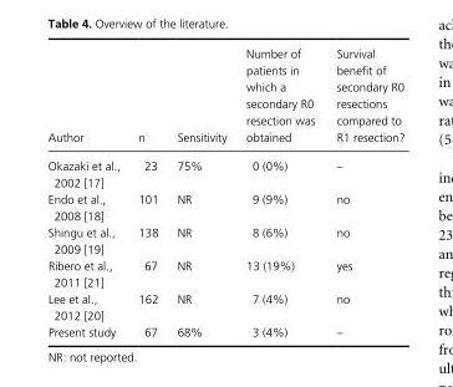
<table><thead><tr><td>Author</td><td>n</td><td>Sensitivity</td><td>Number of patients in which a secondary R0 resection was obtained</td><td>Survival benefit of secondary R0 resections compared to R1 resection?</td></tr></thead><tbody><tr><td>Okazaki et al., 2002 [17]</td><td>23</td><td>75%</td><td>0 (0%)</td><td>–</td></tr><tr><td>Endo et al., 2008 [18]</td><td>101</td><td>NR</td><td>9 (9%)</td><td>no</td></tr><tr><td>Shingu et al., 2009 [19]</td><td>138</td><td>NR</td><td>8 (6%)</td><td>no</td></tr><tr><td>Ribero et al., 2011 [21]</td><td>67</td><td>NR</td><td>13 (19%)</td><td>yes</td></tr><tr><td>Lee et al., 2012 [20]</td><td>162</td><td>NR</td><td>7 (4%)</td><td>no</td></tr><tr><td>Present study</td><td>67</td><td>68%</td><td>3 (4%)</td><td>–</td></tr></tbody></table>